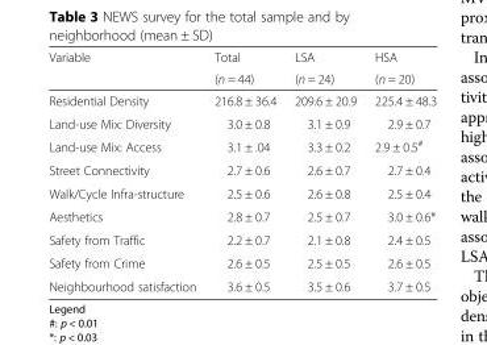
<table><thead><tr><td rowspan="2">Variable</td><td rowspan="2">Total (n = 44)</td><td rowspan="2">LSA (n = 24)</td><td rowspan="2">HSA (n = 20)</td></tr><tr></tr></thead><tbody><tr><td>Residential Density</td><td>216.8 ± 36.4</td><td>209.6 ± 20.9</td><td>225.4 ± 48.3</td></tr><tr><td>Land-use Mix: Diversity</td><td>3.0 ± 0.8</td><td>3.1 ± 0.9</td><td>2.9 ± 0.7</td></tr><tr><td>Land-use Mix: Access</td><td>3.1 ± .04</td><td>3.3 ± 0.2</td><td>2.9 ± 0.5<sup>#</sup></td></tr><tr><td>Street Connectivity</td><td>2.7 ± 0.6</td><td>2.6 ± 0.7</td><td>2.7 ± 0.4</td></tr><tr><td>Walk/Cycle Infra-structure</td><td>2.5 ± 0.6</td><td>2.6 ± 0.8</td><td>2.5 ± 0.4</td></tr><tr><td>Aesthetics</td><td>2.8 ± 0.7</td><td>2.5 ± 0.7</td><td>3.0 ± 0.6*</td></tr><tr><td>Safety from Traffic</td><td>2.2 ± 0.7</td><td>2.1 ± 0.8</td><td>2.4 ± 0.5</td></tr><tr><td>Safety from Crime</td><td>2.6 ± 0.5</td><td>2.5 ± 0.5</td><td>2.6 ± 0.5</td></tr><tr><td>Neighbourhood satisfaction</td><td>3.6 ± 0.5</td><td>3.5 ± 0.6</td><td>3.7 ± 0.5</td></tr></tbody></table>